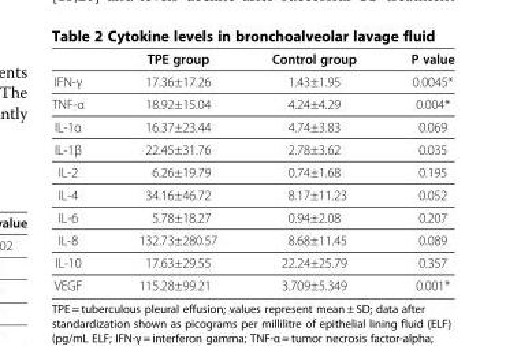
<table><thead><tr><td></td><td>TPE group</td><td>Control group</td><td>P value</td></tr></thead><tbody><tr><td>IFN-γ</td><td>17.36±17.26</td><td>1.43±1.95</td><td>0.0045*</td></tr><tr><td>TNF-α</td><td>18.92±15.04</td><td>4.24±4.29</td><td>0.004*</td></tr><tr><td>IL-1α</td><td>16.37±23.44</td><td>4.74±3.83</td><td>0.069</td></tr><tr><td>IL-1β</td><td>22.45±31.76</td><td>2.78±3.62</td><td>0.035</td></tr><tr><td>IL-2</td><td>6.26±19.79</td><td>0.74±1.68</td><td>0.195</td></tr><tr><td>IL-4</td><td>34.16±46.72</td><td>8.17±11.23</td><td>0.052</td></tr><tr><td>IL-6</td><td>5.78±18.27</td><td>0.94±2.08</td><td>0.207</td></tr><tr><td>IL-8</td><td>132.73±280.57</td><td>8.68±11.45</td><td>0.089</td></tr><tr><td>IL-10</td><td>17.63±29.55</td><td>22.24±25.79</td><td>0.357</td></tr><tr><td>VEGF</td><td>115.28±99.21</td><td>3.709±5.349</td><td>0.001*</td></tr></tbody></table>